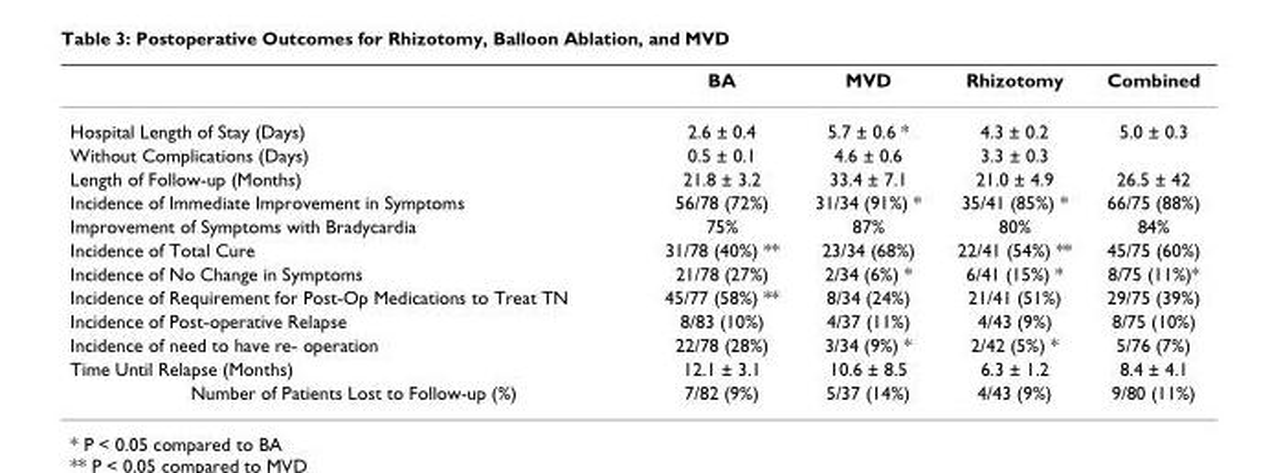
<table><thead><tr><td></td><td>BA</td><td>MVD</td><td>Rhizotomy</td><td>Combined</td></tr></thead><tbody><tr><td>Hospital Length of Stay (Days)</td><td>2.6 ± 0.4</td><td>5.7 ± 0.6 *</td><td>4.3 ± 0.2</td><td>5.0 ± 0.3</td></tr><tr><td>Without Complications (Days)</td><td>0.5 ± 0.1</td><td>4.6 ± 0.6</td><td>3.3 ± 0.3</td><td></td></tr><tr><td>Length of Follow-up (Months)</td><td>21.8 ± 3.2</td><td>33.4 ± 7.1</td><td>21.0 ± 4.9</td><td>26.5 ± 42</td></tr><tr><td>Incidence of Immediate Improvement in Symptoms</td><td>56/78 (72%)</td><td>31/34 (91%) *</td><td>35/41 (85%) *</td><td>66/75 (88%)</td></tr><tr><td>Improvement of Symptoms with Bradycardia</td><td>75%</td><td>87%</td><td>80%</td><td>84%</td></tr><tr><td>Incidence of Total Cure</td><td>31/78 (40%) **</td><td>23/34 (68%)</td><td>22/41 (54%) **</td><td>45/75 (60%)</td></tr><tr><td>Incidence of No Change in Symptoms</td><td>21/78 (27%)</td><td>2/34 (6%) *</td><td>6/41 (15%) *</td><td>8/75 (11%)*</td></tr><tr><td>Incidence of Requirement for Post-Op Medications to Treat TN</td><td>45/77 (58%) **</td><td>8/34 (24%)</td><td>21/41 (51%)</td><td>29/75 (39%)</td></tr><tr><td>Incidence of Post-operative Relapse</td><td>8/83 (10%)</td><td>4/37 (11%)</td><td>4/43 (9%)</td><td>8/75 (10%)</td></tr><tr><td>Incidence of need to have re- operation</td><td>22/78 (28%)</td><td>3/34 (9%) *</td><td>2/42 (5%) *</td><td>5/76 (7%)</td></tr><tr><td>Time Until Relapse (Months)</td><td>12.1 ± 3.1</td><td>10.6 ± 8.5</td><td>6.3 ± 1.2</td><td>8.4 ± 4.1</td></tr><tr><td>Number of Patients Lost to Follow-up (%)</td><td>7/82 (9%)</td><td>5/37 (14%)</td><td>4/43 (9%)</td><td>9/80 (11%)</td></tr></tbody></table>